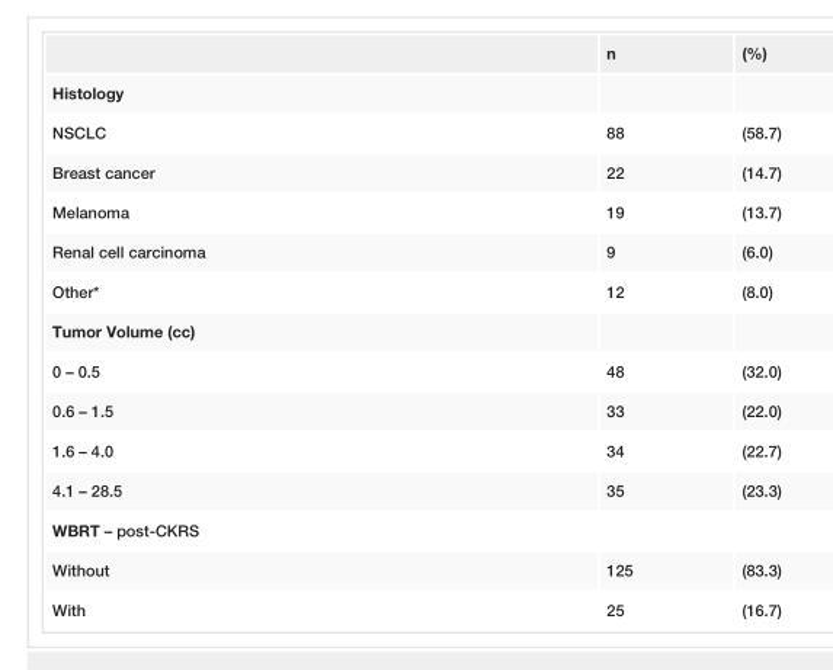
<table><thead><tr><td></td><td>n</td><td>(%)</td></tr></thead><tbody><tr><td colspan="3">Histology</td></tr><tr><td>NSCLC</td><td>88</td><td>(58.7)</td></tr><tr><td>Breast cancer</td><td>22</td><td>(14.7)</td></tr><tr><td>Melanoma</td><td>19</td><td>(13.7)</td></tr><tr><td>Renal cell carcinoma</td><td>9</td><td>(6.0)</td></tr><tr><td>Other*</td><td>12</td><td>(8.0)</td></tr><tr><td colspan="3">Tumor Volume (cc)</td></tr><tr><td>0 – 0.5</td><td>48</td><td>(32.0)</td></tr><tr><td>0.6 – 1.5</td><td>33</td><td>(22.0)</td></tr><tr><td>1.6 – 4.0</td><td>34</td><td>(22.7)</td></tr><tr><td>4.1 – 28.5</td><td>35</td><td>(23.3)</td></tr><tr><td colspan="3">WBRT – post-CKRS</td></tr><tr><td>Without</td><td>125</td><td>(83.3)</td></tr><tr><td>With</td><td>25</td><td>(16.7)</td></tr></tbody></table>